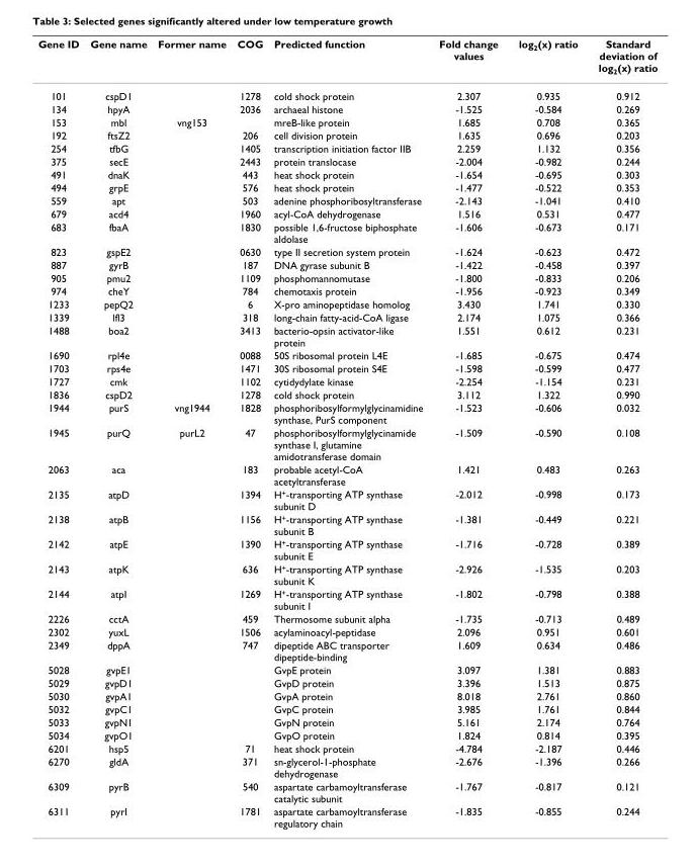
<table><thead><tr><td>Gene ID</td><td>Gene name</td><td>Former name</td><td>COG</td><td>Predicted function</td><td>Fold change values</td><td>log<sub>2</sub>(x) ratio</td><td>Standard deviation of log<sub>2</sub>(x) ratio</td></tr></thead><tbody><tr><td>101</td><td>cspD1</td><td></td><td>1278</td><td>cold shock protein</td><td>2.307</td><td>0.935</td><td>0.912</td></tr><tr><td>134</td><td>hpyA</td><td></td><td>2036</td><td>archaeal histone</td><td>-1.525</td><td>-0.584</td><td>0.269</td></tr><tr><td>153</td><td>mbl</td><td>vng153</td><td></td><td>mreB-like protein</td><td>1.685</td><td>0.708</td><td>0.365</td></tr><tr><td>192</td><td>ftsZ2</td><td></td><td>206</td><td>cell division protein</td><td>1.635</td><td>0.696</td><td>0.203</td></tr><tr><td>254</td><td>tfbG</td><td></td><td>1405</td><td>transcription initiation factor IIB</td><td>2.259</td><td>1.132</td><td>0.356</td></tr><tr><td>375</td><td>secE</td><td></td><td>2443</td><td>protein translocase</td><td>-2.004</td><td>-0.982</td><td>0.244</td></tr><tr><td>491</td><td>dnaK</td><td></td><td>443</td><td>heat shock protein</td><td>-1.654</td><td>-0.695</td><td>0.303</td></tr><tr><td>494</td><td>grpE</td><td></td><td>576</td><td>heat shock protein</td><td>-1.477</td><td>-0.522</td><td>0.353</td></tr><tr><td>559</td><td>apt</td><td></td><td>503</td><td>adenine phosphoribosyltransferase</td><td>-2.143</td><td>-1.041</td><td>0.410</td></tr><tr><td>679</td><td>acd4</td><td></td><td>1960</td><td>acyl-CoA dehydrogenase</td><td>1.516</td><td>0.531</td><td>0.477</td></tr><tr><td>683</td><td>fbaA</td><td></td><td>1830</td><td>possible 1,6-fructose biphosphate aldolase</td><td>-1.606</td><td>-0.673</td><td>0.171</td></tr><tr><td>823</td><td>gspE2</td><td></td><td>0630</td><td>type II secretion system protein</td><td>-1.624</td><td>-0.623</td><td>0.472</td></tr><tr><td>887</td><td>gyrB</td><td></td><td>187</td><td>DNA gyrase subunit B</td><td>-1.422</td><td>-0.458</td><td>0.397</td></tr><tr><td>905</td><td>pmu2</td><td></td><td>1109</td><td>phosphomannomutase</td><td>-1.800</td><td>-0.833</td><td>0.206</td></tr><tr><td>974</td><td>cheY</td><td></td><td>784</td><td>chemotaxis protein</td><td>-1.956</td><td>-0.923</td><td>0.349</td></tr><tr><td>1233</td><td>pepQ2</td><td></td><td>6</td><td>X-pro aminopeptidase homolog</td><td>3.430</td><td>1.741</td><td>0.330</td></tr><tr><td>1339</td><td>lfl3</td><td></td><td>318</td><td>long-chain fatty-acid-CoA ligase</td><td>2.174</td><td>1.075</td><td>0.366</td></tr><tr><td>1488</td><td>boa2</td><td></td><td>3413</td><td>bacterio-opsin activator-like protein</td><td>1.551</td><td>0.612</td><td>0.231</td></tr><tr><td>1690</td><td>rpl4e</td><td></td><td>0088</td><td>50S ribosomal protein L4E</td><td>-1.685</td><td>-0.675</td><td>0.474</td></tr><tr><td>1703</td><td>rps4e</td><td></td><td>1471</td><td>30S ribosomal protein S4E</td><td>-1.598</td><td>-0.599</td><td>0.477</td></tr><tr><td>1727</td><td>cmk</td><td></td><td>1102</td><td>cytidydylate kinase</td><td>-2.254</td><td>-1.154</td><td>0.231</td></tr><tr><td>1836</td><td>cspD2</td><td></td><td>1278</td><td>cold shock protein</td><td>3.112</td><td>1.322</td><td>0.990</td></tr><tr><td>1944</td><td>purS</td><td>vng1944</td><td>1828</td><td>phosphoribosylformylglycinamidine synthase, PurS component</td><td>-1.523</td><td>-0.606</td><td>0.032</td></tr><tr><td>1945</td><td>purQ</td><td>purL2</td><td>47</td><td>phosphoribosylformylglycinamide synthase I, glutamine amidotransferase domain</td><td>-1.509</td><td>-0.590</td><td>0.108</td></tr><tr><td>2063</td><td>aca</td><td></td><td>183</td><td>probable acetyl-CoA acetyltransferase</td><td>1.421</td><td>0.483</td><td>0.263</td></tr><tr><td>2135</td><td>atpD</td><td></td><td>1394</td><td>H<sup>+</sup>-transporting ATP synthase subunit D</td><td>-2.012</td><td>-0.998</td><td>0.173</td></tr><tr><td>2138</td><td>atpB</td><td></td><td>1156</td><td>H<sup>+</sup>-transporting ATP synthase subunit B</td><td>-1.381</td><td>-0.449</td><td>0.221</td></tr><tr><td>2142</td><td>atpE</td><td></td><td>1390</td><td>H<sup>+</sup>-transporting ATP synthase subunit E</td><td>-1.716</td><td>-0.728</td><td>0.389</td></tr><tr><td>2143</td><td>atpK</td><td></td><td>636</td><td>H<sup>+</sup>-transporting ATP synthase subunit K</td><td>-2.926</td><td>-1.535</td><td>0.203</td></tr><tr><td>2144</td><td>atpI</td><td></td><td>1269</td><td>H<sup>+</sup>-transporting ATP synthase subunit I</td><td>-1.802</td><td>-0.798</td><td>0.388</td></tr><tr><td>2226</td><td>cctA</td><td></td><td>459</td><td>Thermosome subunit alpha</td><td>-1.735</td><td>-0.713</td><td>0.489</td></tr><tr><td>2302</td><td>yuxL</td><td></td><td>1506</td><td>acylaminoacyl-peptidase</td><td>2.096</td><td>0.951</td><td>0.601</td></tr><tr><td>2349</td><td>dppA</td><td></td><td>747</td><td>dipeptide ABC transporter dipeptide-binding</td><td>1.609</td><td>0.634</td><td>0.486</td></tr><tr><td>5028</td><td>gvpE1</td><td></td><td></td><td>GvpE protein</td><td>3.097</td><td>1.381</td><td>0.883</td></tr><tr><td>5029</td><td>gvpD1</td><td></td><td></td><td>GvpD protein</td><td>3.396</td><td>1.513</td><td>0.875</td></tr><tr><td>5030</td><td>gvpA1</td><td></td><td></td><td>GvpA protein</td><td>8.018</td><td>2.761</td><td>0.860</td></tr><tr><td>5032</td><td>gvpC1</td><td></td><td></td><td>GvpC protein</td><td>3.985</td><td>1.761</td><td>0.844</td></tr><tr><td>5033</td><td>gvpN1</td><td></td><td></td><td>GvpN protein</td><td>5.161</td><td>2.174</td><td>0.764</td></tr><tr><td>5034</td><td>gvpO1</td><td></td><td></td><td>GvpO protein</td><td>1.824</td><td>0.814</td><td>0.395</td></tr><tr><td>6201</td><td>hsp5</td><td></td><td>71</td><td>heat shock protein</td><td>-4.784</td><td>-2.187</td><td>0.446</td></tr><tr><td>6270</td><td>gldA</td><td></td><td>371</td><td>sn-glycerol-1-phosphate dehydrogenase</td><td>-2.676</td><td>-1.396</td><td>0.266</td></tr><tr><td>6309</td><td>pyrB</td><td></td><td>540</td><td>aspartate carbamoyltransferase catalytic subunit</td><td>-1.767</td><td>-0.817</td><td>0.121</td></tr><tr><td>6311</td><td>pyrI</td><td></td><td>1781</td><td>aspartate carbamoyltransferase regulatory chain</td><td>-1.835</td><td>-0.855</td><td>0.244</td></tr></tbody></table>